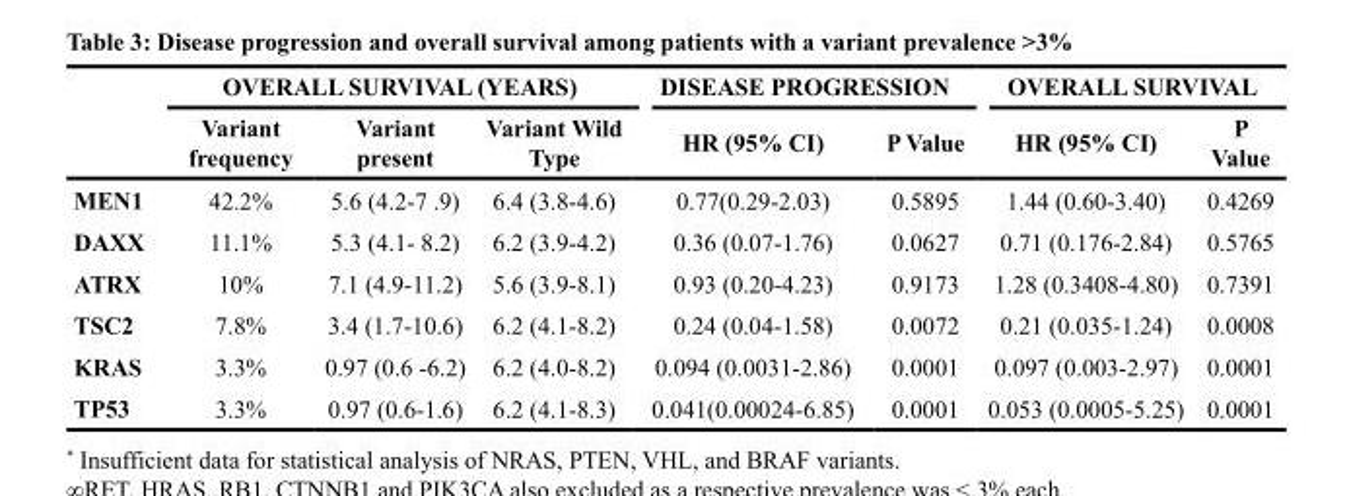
<table><thead><tr><td rowspan="2"></td><td colspan="3">OVERALL SURVIVAL (YEARS)</td><td colspan="2">DISEASE PROGRESSION</td><td colspan="2">OVERALL SURVIVAL</td></tr><tr><td>Variant frequency</td><td>Variant present</td><td>Variant Wild Type</td><td>HR (95% CI)</td><td>P Value</td><td>HR (95% CI)</td><td>P Value</td></tr></thead><tbody><tr><td>MEN1</td><td>42.2%</td><td>5.6 (4.2-7 .9)</td><td>6.4 (3.8-4.6)</td><td>0.77(0.29-2.03)</td><td>0.5895</td><td>1.44 (0.60-3.40)</td><td>0.4269</td></tr><tr><td>DAXX</td><td>11.1%</td><td>5.3 (4.1- 8.2)</td><td>6.2 (3.9-4.2)</td><td>0.36 (0.07-1.76)</td><td>0.0627</td><td>0.71 (0.176-2.84)</td><td>0.5765</td></tr><tr><td>ATRX</td><td>10%</td><td>7.1 (4.9-11.2)</td><td>5.6 (3.9-8.1)</td><td>0.93 (0.20-4.23)</td><td>0.9173</td><td>1.28 (0.3408-4.80)</td><td>0.7391</td></tr><tr><td>TSC2</td><td>7.8%</td><td>3.4 (1.7-10.6)</td><td>6.2 (4.1-8.2)</td><td>0.24 (0.04-1.58)</td><td>0.0072</td><td>0.21 (0.035-1.24)</td><td>0.0008</td></tr><tr><td>KRAS</td><td>3.3%</td><td>0.97 (0.6 -6.2)</td><td>6.2 (4.0-8.2)</td><td>0.094 (0.0031-2.86)</td><td>0.0001</td><td>0.097 (0.003-2.97)</td><td>0.0001</td></tr><tr><td>TP53</td><td>3.3%</td><td>0.97 (0.6-1.6)</td><td>6.2 (4.1-8.3)</td><td>0.041(0.00024-6.85)</td><td>0.0001</td><td>0.053 (0.0005-5.25)</td><td>0.0001</td></tr></tbody></table>